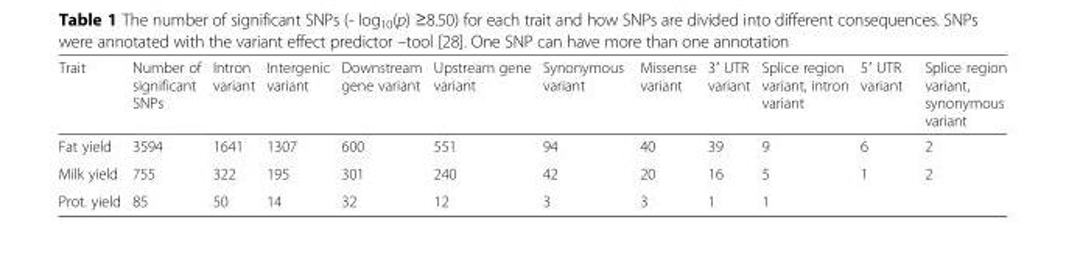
<table><thead><tr><td>Trait</td><td>Number of significant SNPs</td><td>Intron variant</td><td>Intergenic variant</td><td>Downstream gene variant</td><td>Upstream gene variant</td><td>Synonymous variant</td><td>Missense variant</td><td>3′ UTR variant</td><td>Splice region variant, intron variant</td><td>5′ UTR variant</td><td>Splice region variant, synonymous variant</td></tr></thead><tbody><tr><td>Fat yield</td><td>3594</td><td>1641</td><td>1307</td><td>600</td><td>551</td><td>94</td><td>40</td><td>39</td><td>9</td><td>6</td><td>2</td></tr><tr><td>Milk yield</td><td>755</td><td>322</td><td>195</td><td>301</td><td>240</td><td>42</td><td>20</td><td>16</td><td>5</td><td>1</td><td>2</td></tr><tr><td>Prot. yield</td><td>85</td><td>50</td><td>14</td><td>32</td><td>12</td><td>3</td><td>3</td><td>1</td><td>1</td><td></td><td></td></tr></tbody></table>